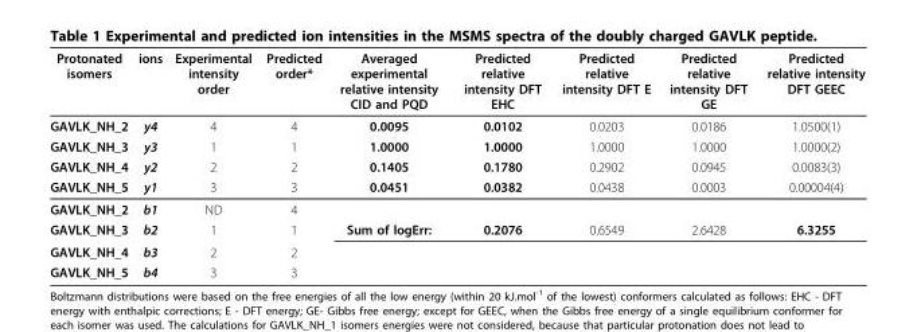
<table><thead><tr><td>Protonated isomers</td><td>ions</td><td>Experimental intensity order</td><td>Predicted order*</td><td>Averaged experimental relative intensity CID and PQD</td><td>Predicted relative intensity DFT EHC</td><td>Predicted relative intensity DFT E</td><td>Predicted relative intensity DFT GE</td><td>Predicted relative intensity DFT GEEC</td></tr></thead><tbody><tr><td>GAVLK_NH_2</td><td>y4</td><td>4</td><td>4</td><td>0.0095</td><td>0.0102</td><td>0.0203</td><td>0.0186</td><td>1.0500(1)</td></tr><tr><td>GAVLK_NH_3</td><td>y3</td><td>1</td><td>1</td><td>1.0000</td><td>1.0000</td><td>1.0000</td><td>1.0000</td><td>1.0000(2)</td></tr><tr><td>GAVLK_NH_4</td><td>y2</td><td>2</td><td>2</td><td>0.1405</td><td>0.1780</td><td>0.2902</td><td>0.0945</td><td>0.0083(3)</td></tr><tr><td>GAVLK_NH_5</td><td>y1</td><td>3</td><td>3</td><td>0.0451</td><td>0.0382</td><td>0.0438</td><td>0.0003</td><td>0.00004(4)</td></tr><tr><td>GAVLK_NH_2</td><td>b1</td><td>ND</td><td>4</td><td></td><td></td><td></td><td></td><td></td></tr><tr><td>GAVLK_NH_3</td><td>b2</td><td>1</td><td>1</td><td>Sum of logErr:</td><td>0.2076</td><td>0.6549</td><td>2.6428</td><td>6.3255</td></tr><tr><td>GAVLK_NH_4</td><td>b3</td><td>2</td><td>2</td><td></td><td></td><td></td><td></td><td></td></tr><tr><td>GAVLK_NH_5</td><td>b4</td><td>3</td><td>3</td><td></td><td></td><td></td><td></td><td></td></tr></tbody></table>